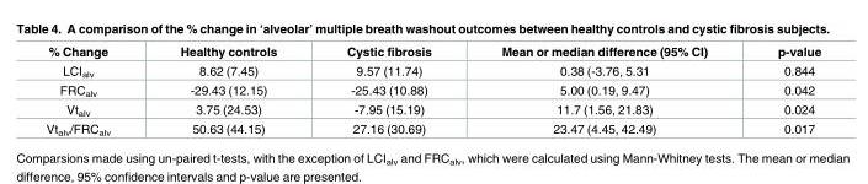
<table><thead><tr><td>% Change</td><td>Healthy controls</td><td>Cystic fibrosis</td><td>Mean or median difference (95% CI)</td><td>p-value</td></tr></thead><tbody><tr><td>LCI<sub>alv</sub></td><td>8.62 (7.45)</td><td>9.57 (11.74)</td><td>0.38 (-3.76, 5.31</td><td>0.844</td></tr><tr><td>FRC<sub>alv</sub></td><td>-29.43 (12.15)</td><td>-25.43 (10.88)</td><td>5.00 (0.19, 9.47)</td><td>0.042</td></tr><tr><td>Vt<sub>alv</sub></td><td>3.75 (24.53)</td><td>-7.95 (15.19)</td><td>11.7 (1.56, 21.83)</td><td>0.024</td></tr><tr><td>Vt<sub>alv</sub>/FRC<sub>alv</sub></td><td>50.63 (44.15)</td><td>27.16 (30.69)</td><td>23.47 (4.45, 42.49)</td><td>0.017</td></tr></tbody></table>